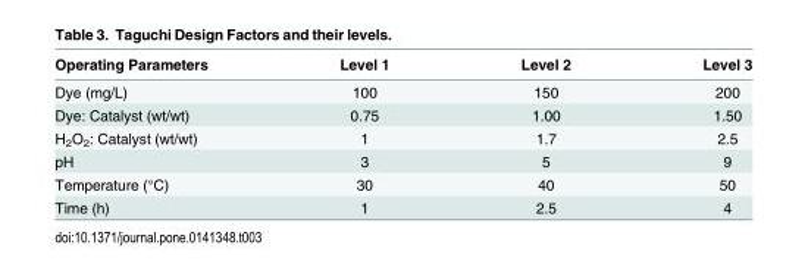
<table><thead><tr><td>Operating Parameters</td><td>Level 1</td><td>Level 2</td><td>Level 3</td></tr></thead><tbody><tr><td>Dye (mg/L)</td><td>100</td><td>150</td><td>200</td></tr><tr><td>Dye: Catalyst (wt/wt)</td><td>0.75</td><td>1.00</td><td>1.50</td></tr><tr><td>H<sub>2</sub>O<sub>2</sub>: Catalyst (wt/wt)</td><td>1</td><td>1.7</td><td>2.5</td></tr><tr><td>pH</td><td>3</td><td>5</td><td>9</td></tr><tr><td>Temperature (°C)</td><td>30</td><td>40</td><td>50</td></tr><tr><td>Time (h)</td><td>1</td><td>2.5</td><td>4</td></tr></tbody></table>